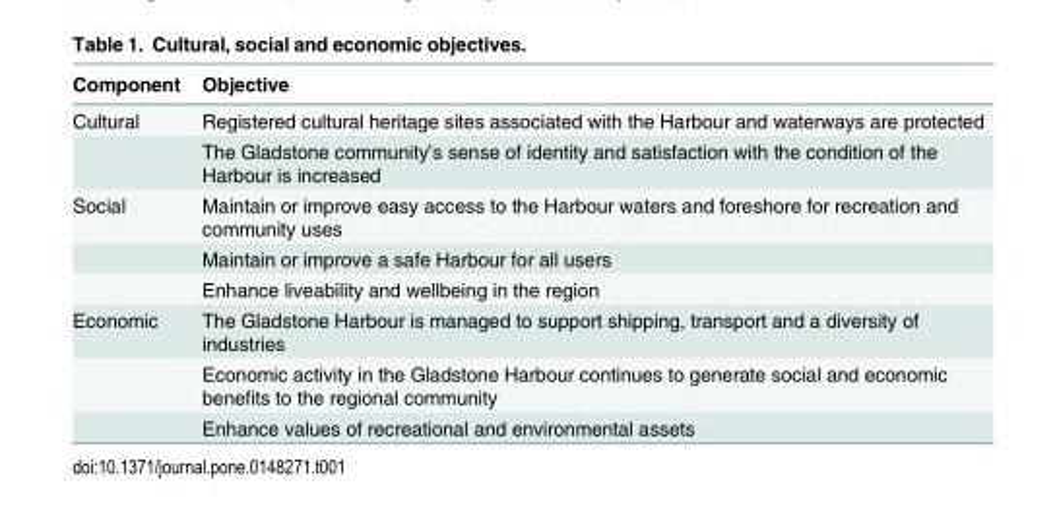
<table><thead><tr><td>Component</td><td>Objective</td></tr></thead><tbody><tr><td rowspan="2">Cultural</td><td>Registered cultural heritage sites associated with the Harbour and waterways are protected</td></tr><tr><td>The Gladstone community’s sense of identity and satisfaction with the condition of the Harbour is increased</td></tr><tr><td rowspan="3">Social</td><td>Maintain or improve easy access to the Harbour waters and foreshore for recreation and community uses</td></tr><tr><td>Maintain or improve a safe Harbour for all users</td></tr><tr><td>Enhance liveability and wellbeing in the region</td></tr><tr><td rowspan="3">Economic</td><td>The Gladstone Harbour is managed to support shipping, transport and a diversity of industries</td></tr><tr><td>Economic activity in the Gladstone Harbour continues to generate social and economic benefits to the regional community</td></tr><tr><td>Enhance values of recreational and environmental assets</td></tr></tbody></table>